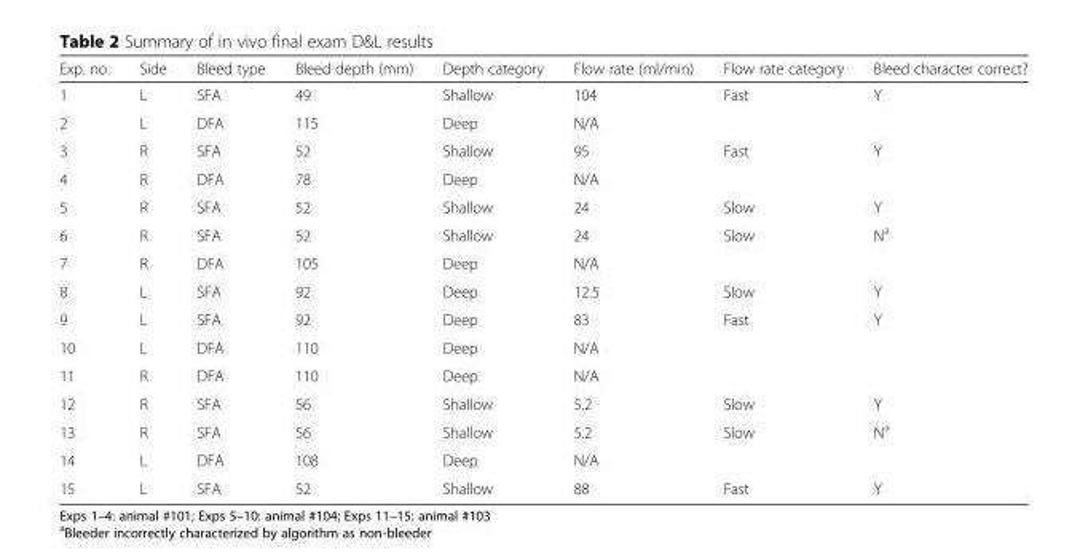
<table><thead><tr><td>Exp. no.</td><td>Side</td><td>Bleed type</td><td>Bleed depth (mm)</td><td>Depth category</td><td>Flow rate (ml/min)</td><td>Flow rate category</td><td>Bleed character correct?</td></tr></thead><tbody><tr><td>1</td><td>L</td><td>SFA</td><td>49</td><td>Shallow</td><td>104</td><td>Fast</td><td>Y</td></tr><tr><td>2</td><td>L</td><td>DFA</td><td>115</td><td>Deep</td><td colspan="3">N/A</td></tr><tr><td>3</td><td>R</td><td>SFA</td><td>52</td><td>Shallow</td><td>95</td><td>Fast</td><td>Y</td></tr><tr><td>4</td><td>R</td><td>DFA</td><td>78</td><td>Deep</td><td colspan="3">N/A</td></tr><tr><td>5</td><td>R</td><td>SFA</td><td>52</td><td>Shallow</td><td>24</td><td>Slow</td><td>Y</td></tr><tr><td>6</td><td>R</td><td>SFA</td><td>52</td><td>Shallow</td><td>24</td><td>Slow</td><td>N<sup>a</sup></td></tr><tr><td>7</td><td>R</td><td>DFA</td><td>105</td><td>Deep</td><td colspan="3">N/A</td></tr><tr><td>8</td><td>L</td><td>SFA</td><td>92</td><td>Deep</td><td>12.5</td><td>Slow</td><td>Y</td></tr><tr><td>9</td><td>L</td><td>SFA</td><td>92</td><td>Deep</td><td>83</td><td>Fast</td><td>Y</td></tr><tr><td>10</td><td>L</td><td>DFA</td><td>110</td><td>Deep</td><td colspan="3">N/A</td></tr><tr><td>11</td><td>R</td><td>DFA</td><td>110</td><td>Deep</td><td colspan="3">N/A</td></tr><tr><td>12</td><td>R</td><td>SFA</td><td>56</td><td>Shallow</td><td>5.2</td><td>Slow</td><td>Y</td></tr><tr><td>13</td><td>R</td><td>SFA</td><td>56</td><td>Shallow</td><td>5.2</td><td>Slow</td><td>N<sup>a</sup></td></tr><tr><td>14</td><td>L</td><td>DFA</td><td>108</td><td>Deep</td><td colspan="3">N/A</td></tr><tr><td>15</td><td>L</td><td>SFA</td><td>52</td><td>Shallow</td><td>88</td><td>Fast</td><td>Y</td></tr></tbody></table>